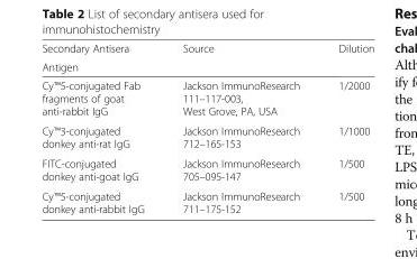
<table><thead><tr><td rowspan="2">Secondary Antisera Antigen</td><td rowspan="2">Source</td><td rowspan="2">Dilution</td></tr><tr></tr></thead><tbody><tr><td>Cy™5-conjugated Fab fragments of goat anti-rabbit IgG</td><td>Jackson ImmunoResearch 111–117-003, West Grove, PA, USA</td><td>1/2000</td></tr><tr><td>Cy™3-conjugated donkey anti-rat IgG</td><td>Jackson ImmunoResearch 712–165-153</td><td>1/1000</td></tr><tr><td>FITC-conjugated donkey anti-goat IgG</td><td>Jackson ImmunoResearch 705–095-147</td><td>1/500</td></tr><tr><td>Cy™5-conjugated donkey anti-rabbit IgG</td><td>Jackson ImmunoResearch 711–175-152</td><td>1/500</td></tr></tbody></table>